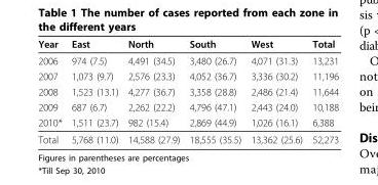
<table><thead><tr><td>Year</td><td>East</td><td>North</td><td>South</td><td>West</td><td>Total</td></tr></thead><tbody><tr><td>2006</td><td>974 (7.5)</td><td>4,491 (34.5)</td><td>3,480 (26.7)</td><td>4,071 (31.3)</td><td>13,231</td></tr><tr><td>2007</td><td>1,073 (9.7)</td><td>2,576 (23.3)</td><td>4,052 (36.7)</td><td>3,336 (30.2)</td><td>11,196</td></tr><tr><td>2008</td><td>1,523 (13.1)</td><td>4,277 (36.7)</td><td>3,358 (28.8)</td><td>2,486 (21.4)</td><td>11,644</td></tr><tr><td>2009</td><td>687 (6.7)</td><td>2,262 (22.2)</td><td>4,796 (47.1)</td><td>2,443 (24.0)</td><td>10,188</td></tr><tr><td>2010*</td><td>1,511 (23.7)</td><td>982 (15.4)</td><td>2,869 (44.9)</td><td>1,026 (16.1)</td><td>6,388</td></tr><tr><td>Total</td><td>5,768 (11.0)</td><td>14,588 (27.9)</td><td>18,555 (35.5)</td><td>13,362 (25.6)</td><td>52,273</td></tr></tbody></table>